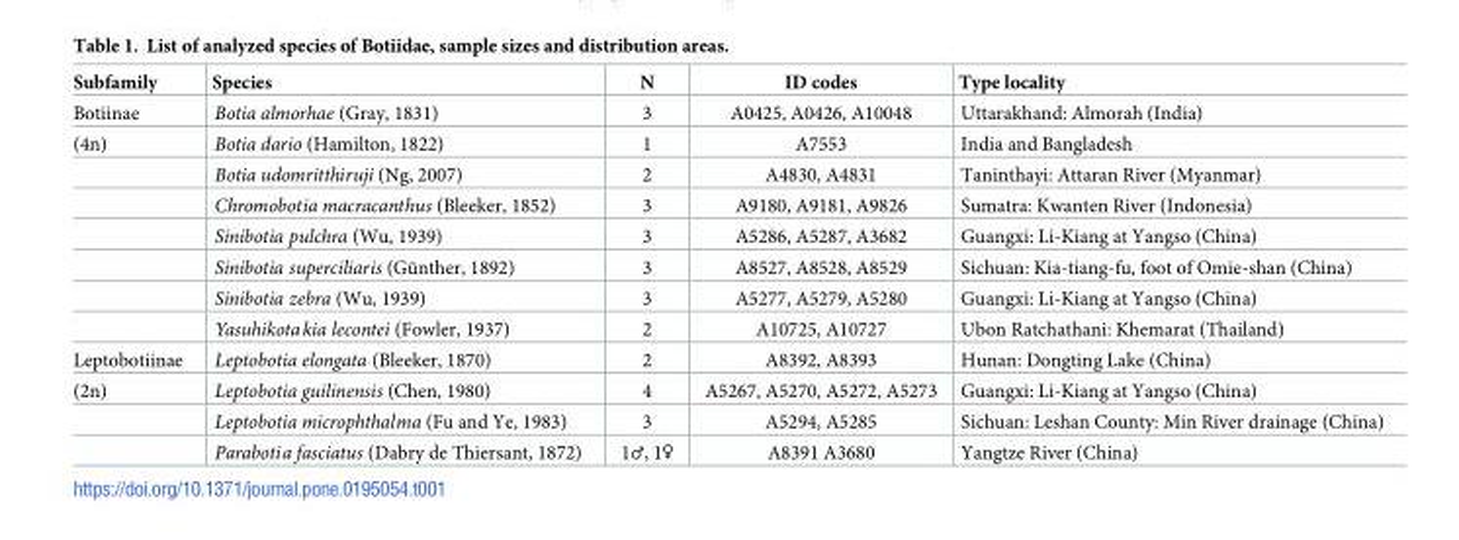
<table><thead><tr><td>Subfamily</td><td>Species</td><td>N</td><td>ID codes</td><td>Type locality</td></tr></thead><tbody><tr><td>Botiinae</td><td>Botia almorhae (Gray, 1831)</td><td>3</td><td>A0425, A0426, A10048</td><td>Uttarakhand: Almorah (India)</td></tr><tr><td rowspan="7">(4n)</td><td>Botia dario (Hamilton, 1822)</td><td>1</td><td>A7553</td><td>India and Bangladesh</td></tr><tr><td>Botia udomritthiruji (Ng, 2007)</td><td>2</td><td>A4830, A4831</td><td>Taninthayi: Attaran River (Myanmar)</td></tr><tr><td>Chromobotia macracanthus (Bleeker, 1852)</td><td>3</td><td>A9180, A9181, A9826</td><td>Sumatra: Kwanten River (Indonesia)</td></tr><tr><td>Sinibotia pulchra (Wu, 1939)</td><td>3</td><td>A5286, A5287, A3682</td><td>Guangxi: Li-Kiang at Yangso (China)</td></tr><tr><td>Sinibotia superciliaris (Gu¨nther, 1892)</td><td>3</td><td>A8527, A8528, A8529</td><td>Sichuan: Kia-tiang-fu, foot of Omie-shan (China)</td></tr><tr><td>Sinibotia zebra (Wu, 1939)</td><td>3</td><td>A5277, A5279, A5280</td><td>Guangxi: Li-Kiang at Yangso (China)</td></tr><tr><td>Yasuhikotakia lecontei (Fowler, 1937)</td><td>2</td><td>A10725, A10727</td><td>Ubon Ratchathani: Khemarat (Thailand)</td></tr><tr><td>Leptobotiinae</td><td>Leptobotia elongata (Bleeker, 1870)</td><td>2</td><td>A8392, A8393</td><td>Hunan: Dongting Lake (China)</td></tr><tr><td rowspan="3">(2n)</td><td>Leptobotia guilinensis (Chen, 1980)</td><td>4</td><td>A5267, A5270, A5272, A5273</td><td>Guangxi: Li-Kiang at Yangso (China)</td></tr><tr><td>Leptobotia microphthalma (Fu and Ye, 1983)</td><td>3</td><td>A5294, A5285</td><td>Sichuan: Leshan County: Min River drainage (China)</td></tr><tr><td>Parabotia fasciatus (Dabry de Thiersant, 1872)</td><td>1♂, 1♀</td><td>A8391 A3680</td><td>Yangtze River (China)</td></tr></tbody></table>